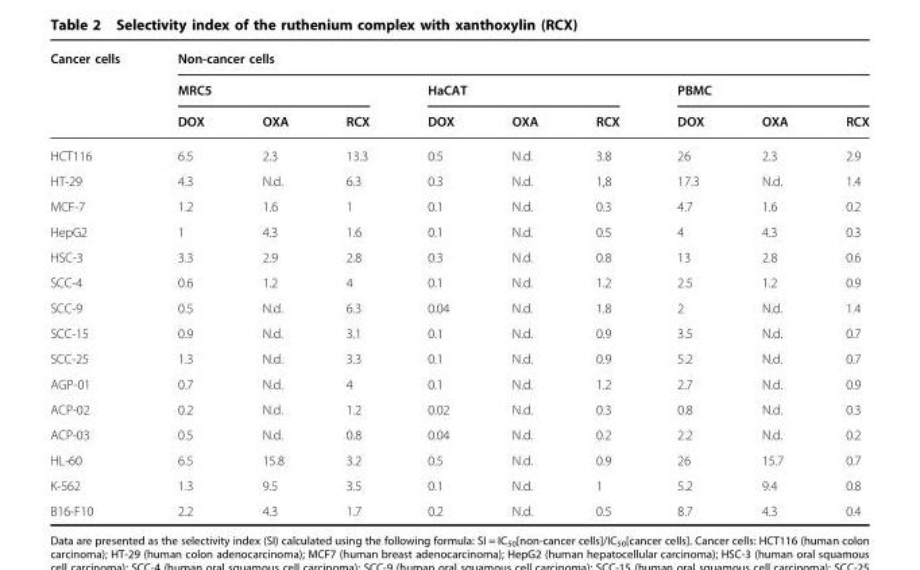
<table><thead><tr><td rowspan="3">Cancer cells</td><td colspan="9">Non-cancer cells</td></tr><tr><td colspan="3">MRC5</td><td colspan="3">HaCAT</td><td colspan="3">PBMC</td></tr><tr><td>DOX</td><td>OXA</td><td>RCX</td><td>DOX</td><td>OXA</td><td>RCX</td><td>DOX</td><td>OXA</td><td>RCX</td></tr></thead><tbody><tr><td>HCT116</td><td>6.5</td><td>2.3</td><td>13.3</td><td>0.5</td><td>N.d.</td><td>3.8</td><td>26</td><td>2.3</td><td>2.9</td></tr><tr><td>HT-29</td><td>4.3</td><td>N.d.</td><td>6.3</td><td>0.3</td><td>N.d.</td><td>1,8</td><td>17.3</td><td>N.d.</td><td>1.4</td></tr><tr><td>MCF-7</td><td>1.2</td><td>1.6</td><td>1</td><td>0.1</td><td>N.d.</td><td>0.3</td><td>4.7</td><td>1.6</td><td>0.2</td></tr><tr><td>HepG2</td><td>1</td><td>4.3</td><td>1.6</td><td>0.1</td><td>N.d.</td><td>0.5</td><td>4</td><td>4.3</td><td>0.3</td></tr><tr><td>HSC-3</td><td>3.3</td><td>2.9</td><td>2.8</td><td>0.3</td><td>N.d.</td><td>0.8</td><td>13</td><td>2.8</td><td>0.6</td></tr><tr><td>SCC-4</td><td>0.6</td><td>1.2</td><td>4</td><td>0.1</td><td>N.d.</td><td>1.2</td><td>2.5</td><td>1.2</td><td>0.9</td></tr><tr><td>SCC-9</td><td>0.5</td><td>N.d.</td><td>6.3</td><td>0.04</td><td>N.d.</td><td>1.8</td><td>2</td><td>N.d.</td><td>1.4</td></tr><tr><td>SCC-15</td><td>0.9</td><td>N.d.</td><td>3.1</td><td>0.1</td><td>N.d.</td><td>0.9</td><td>3.5</td><td>N.d.</td><td>0.7</td></tr><tr><td>SCC-25</td><td>1.3</td><td>N.d.</td><td>3.3</td><td>0.1</td><td>N.d.</td><td>0.9</td><td>5.2</td><td>N.d.</td><td>0.7</td></tr><tr><td>AGP-01</td><td>0.7</td><td>N.d.</td><td>4</td><td>0.1</td><td>N.d.</td><td>1.2</td><td>2.7</td><td>N.d.</td><td>0.9</td></tr><tr><td>ACP-02</td><td>0.2</td><td>N.d.</td><td>1.2</td><td>0.02</td><td>N.d.</td><td>0.3</td><td>0.8</td><td>N.d.</td><td>0.3</td></tr><tr><td>ACP-03</td><td>0.5</td><td>N.d.</td><td>0.8</td><td>0.04</td><td>N.d.</td><td>0.2</td><td>2.2</td><td>N.d.</td><td>0.2</td></tr><tr><td>HL-60</td><td>6.5</td><td>15.8</td><td>3.2</td><td>0.5</td><td>N.d.</td><td>0.9</td><td>26</td><td>15.7</td><td>0.7</td></tr><tr><td>K-562</td><td>1.3</td><td>9.5</td><td>3.5</td><td>0.1</td><td>N.d.</td><td>1</td><td>5.2</td><td>9.4</td><td>0.8</td></tr><tr><td>B16-F10</td><td>2.2</td><td>4.3</td><td>1.7</td><td>0.2</td><td>N.d.</td><td>0.5</td><td>8.7</td><td>4.3</td><td>0.4</td></tr></tbody></table>